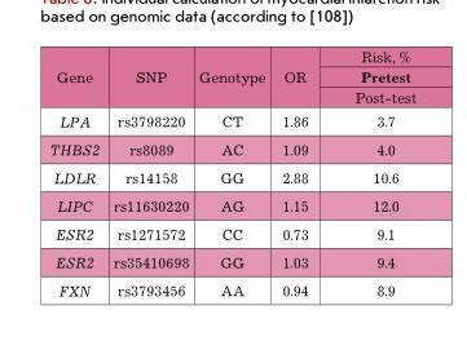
<table><thead><tr><td rowspan="3">Gene</td><td rowspan="3">SNP</td><td rowspan="3">Genotype</td><td rowspan="3">OR</td><td rowspan="3">Risk, % Pretest Post-test</td></tr><tr></tr><tr></tr></thead><tbody><tr><td>LPA</td><td>rs3798220</td><td>CT</td><td>1.86</td><td>3.7</td></tr><tr><td>THBS2</td><td>rs8089</td><td>AC</td><td>1.09</td><td>4.0</td></tr><tr><td>LDLR</td><td>rs14158</td><td>GG</td><td>2.88</td><td>10.6</td></tr><tr><td>LIPC</td><td>rs11630220</td><td>AG</td><td>1.15</td><td>12.0</td></tr><tr><td>ESR2</td><td>rs1271572</td><td>CC</td><td>0.73</td><td>9.1</td></tr><tr><td>ESR2</td><td>rs35410698</td><td>GG</td><td>1.03</td><td>9.4</td></tr><tr><td>FXN</td><td>rs3793456</td><td>AA</td><td>0.94</td><td>8.9</td></tr></tbody></table>